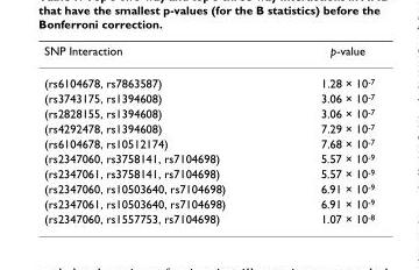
<table><thead><tr><td>SNP Interaction</td><td>p-value</td></tr></thead><tbody><tr><td>(rs6104678, rs7863587)</td><td>1.28 × 10<sup>-7</sup></td></tr><tr><td>(rs3743175, rs1394608)</td><td>3.06 × 10<sup>-7</sup></td></tr><tr><td>(rs2828155, rs1394608)</td><td>3.06 × 10<sup>-7</sup></td></tr><tr><td>(rs4292478, rs1394608)</td><td>7.29 × 10<sup>-7</sup></td></tr><tr><td>(rs6104678, rs10512174)</td><td>7.68 × 10<sup>-7</sup></td></tr><tr><td>(rs2347060, rs3758141, rs7104698)</td><td>5.57 × 10<sup>-9</sup></td></tr><tr><td>(rs2347061, rs3758141, rs7104698)</td><td>5.57 × 10<sup>-9</sup></td></tr><tr><td>(rs2347060, rs10503640, rs7104698)</td><td>6.91 × 10<sup>-9</sup></td></tr><tr><td>(rs2347061, rs10503640, rs7104698)</td><td>6.91 × 10<sup>-9</sup></td></tr><tr><td>(rs2347060, rs1557753, rs7104698)</td><td>1.07 × 10<sup>-8</sup></td></tr></tbody></table>